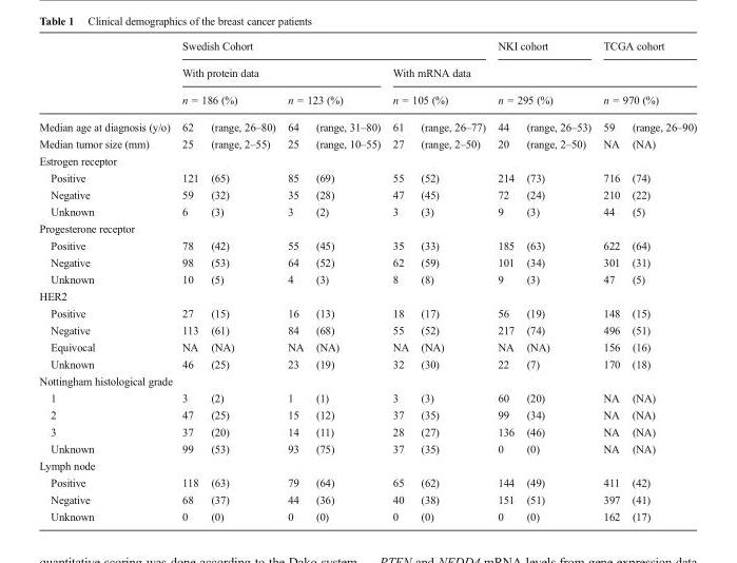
<table><thead><tr><td rowspan="4">Median age at diagnosis (y/o)</td><td colspan="6">Swedish Cohort</td><td colspan="2">NKI cohort</td><td colspan="2">TCGA cohort</td></tr><tr><td colspan="4">With protein data</td><td colspan="6">With mRNA data</td></tr><tr><td colspan="2">n = 186 (%)</td><td colspan="2">n = 123 (%)</td><td colspan="2">n = 105 (%)</td><td colspan="2">n = 295 (%)</td><td colspan="2">n = 970 (%)</td></tr><tr><td>62</td><td>(range, 26–80)</td><td>64</td><td>(range, 31–80)</td><td>61</td><td>(range, 26–77)</td><td>44</td><td>(range, 26–53)</td><td>59</td><td>(range, 26–90)</td></tr></thead><tbody><tr><td>Median tumor size (mm)</td><td>25</td><td>(range, 2–55)</td><td>25</td><td>(range, 10–55)</td><td>27</td><td>(range, 2–50)</td><td>20</td><td>(range, 2–50)</td><td>NA</td><td>(NA)</td></tr><tr><td colspan="11">Estrogen receptor</td></tr><tr><td>Positive</td><td>121</td><td>(65)</td><td>85</td><td>(69)</td><td>55</td><td>(52)</td><td>214</td><td>(73)</td><td>716</td><td>(74)</td></tr><tr><td>Negative</td><td>59</td><td>(32)</td><td>35</td><td>(28)</td><td>47</td><td>(45)</td><td>72</td><td>(24)</td><td>210</td><td>(22)</td></tr><tr><td>Unknown</td><td>6</td><td>(3)</td><td>3</td><td>(2)</td><td>3</td><td>(3)</td><td>9</td><td>(3)</td><td>44</td><td>(5)</td></tr><tr><td colspan="11">Progesterone receptor</td></tr><tr><td>Positive</td><td>78</td><td>(42)</td><td>55</td><td>(45)</td><td>35</td><td>(33)</td><td>185</td><td>(63)</td><td>622</td><td>(64)</td></tr><tr><td>Negative</td><td>98</td><td>(53)</td><td>64</td><td>(52)</td><td>62</td><td>(59)</td><td>101</td><td>(34)</td><td>301</td><td>(31)</td></tr><tr><td>Unknown</td><td>10</td><td>(5)</td><td>4</td><td>(3)</td><td>8</td><td>(8)</td><td>9</td><td>(3)</td><td>47</td><td>(5)</td></tr><tr><td colspan="11">HER2</td></tr><tr><td>Positive</td><td>27</td><td>(15)</td><td>16</td><td>(13)</td><td>18</td><td>(17)</td><td>56</td><td>(19)</td><td>148</td><td>(15)</td></tr><tr><td>Negative</td><td>113</td><td>(61)</td><td>84</td><td>(68)</td><td>55</td><td>(52)</td><td>217</td><td>(74)</td><td>496</td><td>(51)</td></tr><tr><td>Equivocal</td><td>NA</td><td>(NA)</td><td>NA</td><td>(NA)</td><td>NA</td><td>(NA)</td><td>NA</td><td>(NA)</td><td>156</td><td>(16)</td></tr><tr><td>Unknown</td><td>46</td><td>(25)</td><td>23</td><td>(19)</td><td>32</td><td>(30)</td><td>22</td><td>(7)</td><td>170</td><td>(18)</td></tr><tr><td colspan="11">Nottingham histological grade</td></tr><tr><td>1</td><td>3</td><td>(2)</td><td>1</td><td>(1)</td><td>3</td><td>(3)</td><td>60</td><td>(20)</td><td>NA</td><td>(NA)</td></tr><tr><td>2</td><td>47</td><td>(25)</td><td>15</td><td>(12)</td><td>37</td><td>(35)</td><td>99</td><td>(34)</td><td>NA</td><td>(NA)</td></tr><tr><td>3</td><td>37</td><td>(20)</td><td>14</td><td>(11)</td><td>28</td><td>(27)</td><td>136</td><td>(46)</td><td>NA</td><td>(NA)</td></tr><tr><td>Unknown</td><td>99</td><td>(53)</td><td>93</td><td>(75)</td><td>37</td><td>(35)</td><td>0</td><td>(0)</td><td>NA</td><td>(NA)</td></tr><tr><td colspan="11">Lymph node</td></tr><tr><td>Positive</td><td>118</td><td>(63)</td><td>79</td><td>(64)</td><td>65</td><td>(62)</td><td>144</td><td>(49)</td><td>411</td><td>(42)</td></tr><tr><td>Negative</td><td>68</td><td>(37)</td><td>44</td><td>(36)</td><td>40</td><td>(38)</td><td>151</td><td>(51)</td><td>397</td><td>(41)</td></tr><tr><td>Unknown</td><td>0</td><td>(0)</td><td>0</td><td>(0)</td><td>0</td><td>(0)</td><td>0</td><td>(0)</td><td>162</td><td>(17)</td></tr></tbody></table>